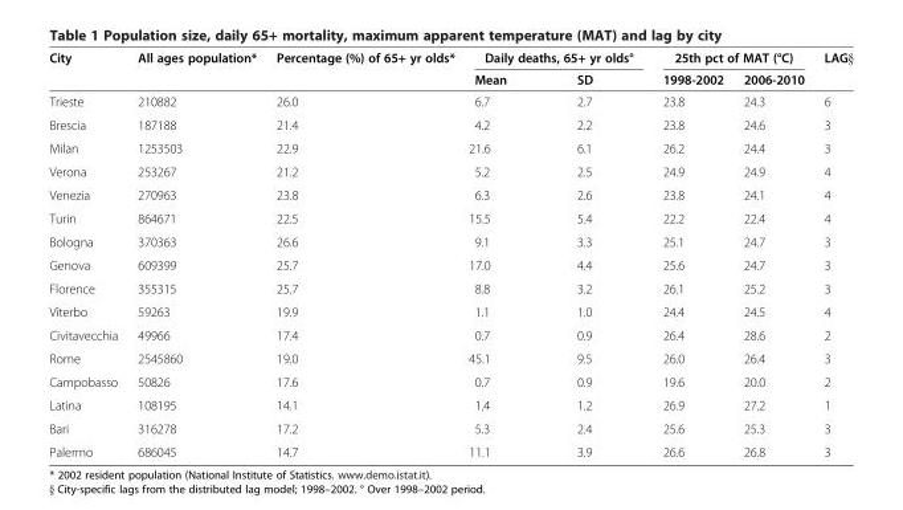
<table><thead><tr><td rowspan="2">City</td><td rowspan="2">All ages population*</td><td rowspan="2">Percentage (%) of 65+ yr olds*</td><td colspan="2">Daily deaths, 65+ yr olds°</td><td colspan="2">25th pct of MAT (°C)</td><td rowspan="2">LAG§</td></tr><tr><td>Mean</td><td>SD</td><td>1998-2002</td><td>2006-2010</td></tr></thead><tbody><tr><td>Trieste</td><td>210882</td><td>26.0</td><td>6.7</td><td>2.7</td><td>23.8</td><td>24.3</td><td>6</td></tr><tr><td>Brescia</td><td>187188</td><td>21.4</td><td>4.2</td><td>2.2</td><td>23.8</td><td>24.6</td><td>3</td></tr><tr><td>Milan</td><td>1253503</td><td>22.9</td><td>21.6</td><td>6.1</td><td>26.2</td><td>24.4</td><td>3</td></tr><tr><td>Verona</td><td>253267</td><td>21.2</td><td>5.2</td><td>2.5</td><td>24.9</td><td>24.9</td><td>4</td></tr><tr><td>Venezia</td><td>270963</td><td>23.8</td><td>6.3</td><td>2.6</td><td>23.8</td><td>24.1</td><td>4</td></tr><tr><td>Turin</td><td>864671</td><td>22.5</td><td>15.5</td><td>5.4</td><td>22.2</td><td>22.4</td><td>4</td></tr><tr><td>Bologna</td><td>370363</td><td>26.6</td><td>9.1</td><td>3.3</td><td>25.1</td><td>24.7</td><td>3</td></tr><tr><td>Genova</td><td>609399</td><td>25.7</td><td>17.0</td><td>4.4</td><td>25.6</td><td>24.7</td><td>3</td></tr><tr><td>Florence</td><td>355315</td><td>25.7</td><td>8.8</td><td>3.2</td><td>26.1</td><td>25.2</td><td>3</td></tr><tr><td>Viterbo</td><td>59263</td><td>19.9</td><td>1.1</td><td>1.0</td><td>24.4</td><td>24.5</td><td>4</td></tr><tr><td>Civitavecchia</td><td>49966</td><td>17.4</td><td>0.7</td><td>0.9</td><td>26.4</td><td>28.6</td><td>2</td></tr><tr><td>Rome</td><td>2545860</td><td>19.0</td><td>45.1</td><td>9.5</td><td>26.0</td><td>26.4</td><td>3</td></tr><tr><td>Campobasso</td><td>50826</td><td>17.6</td><td>0.7</td><td>0.9</td><td>19.6</td><td>20.0</td><td>2</td></tr><tr><td>Latina</td><td>108195</td><td>14.1</td><td>1.4</td><td>1.2</td><td>26.9</td><td>27.2</td><td>1</td></tr><tr><td>Bari</td><td>316278</td><td>17.2</td><td>5.3</td><td>2.4</td><td>25.6</td><td>25.3</td><td>3</td></tr><tr><td>Palermo</td><td>686045</td><td>14.7</td><td>11.1</td><td>3.9</td><td>26.6</td><td>26.8</td><td>3</td></tr></tbody></table>